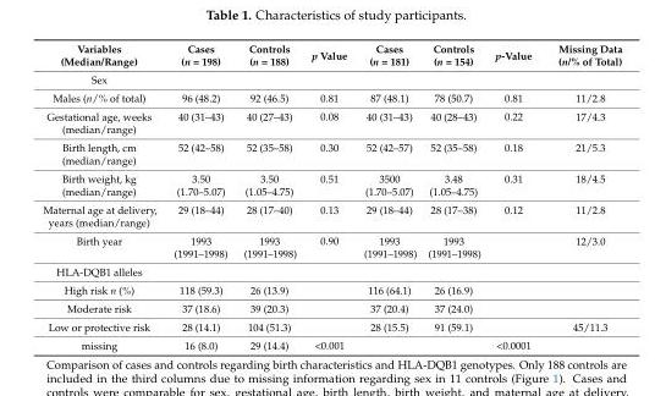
<table><thead><tr><td>Variables (Median/Range)</td><td>Cases (n = 198)</td><td>Controls (n = 188)</td><td>p Value</td><td>Cases (n = 181)</td><td>Controls (n = 154)</td><td>p-Value</td><td>Missing Data (n/% of Total)</td></tr></thead><tbody><tr><td colspan="8">Sex</td></tr><tr><td>Males (n/% of total)</td><td>96 (48.2)</td><td>92 (46.5)</td><td>0.81</td><td>87 (48.1)</td><td>78 (50.7)</td><td>0.81</td><td>11/2.8</td></tr><tr><td>Gestational age, weeks (median/range)</td><td>40 (31–43)</td><td>40 (27–43)</td><td>0.08</td><td>40 (31–43)</td><td>40 (28–43)</td><td>0.22</td><td>17/4.3</td></tr><tr><td>Birth length, cm (median/range)</td><td>52 (42–58)</td><td>52 (35–58)</td><td>0.30</td><td>52 (42–57)</td><td>52 (35–58)</td><td>0.18</td><td>21/5.3</td></tr><tr><td>Birth weight, kg (median/range)</td><td>3.50 (1.70–5.07)</td><td>3.50 (1.05–4.75)</td><td>0.51</td><td>3500 (1.70–5.07)</td><td>3.48 (1.05–4.75)</td><td>0.31</td><td>18/4.5</td></tr><tr><td>Maternal age at delivery, years (median/range)</td><td>29 (18–44)</td><td>28 (17–40)</td><td>0.13</td><td>29 (18–44)</td><td>28 (17–38)</td><td>0.12</td><td>11/2.8</td></tr><tr><td>Birth year</td><td>1993 (1991–1998)</td><td>1993 (1991–1998)</td><td>0.90</td><td>1993 (1991–1998)</td><td>1993 (1991–1998)</td><td></td><td>12/3.0</td></tr><tr><td colspan="8">HLA-DQB1 alleles</td></tr><tr><td>High risk n (%)</td><td>118 (59.3)</td><td>26 (13.9)</td><td></td><td>116 (64.1)</td><td>26 (16.9)</td><td></td><td></td></tr><tr><td>Moderate risk</td><td>37 (18.6)</td><td>39 (20.3)</td><td></td><td>37 (20.4)</td><td>37 (24.0)</td><td></td><td></td></tr><tr><td>Low or protective risk</td><td>28 (14.1)</td><td>104 (51.3)</td><td></td><td>28 (15.5)</td><td>91 (59.1)</td><td></td><td>45/11.3</td></tr><tr><td>missing</td><td>16 (8.0)</td><td>29 (14.4)</td><td>&lt;0.001</td><td></td><td></td><td>&lt;0.0001</td><td></td></tr></tbody></table>